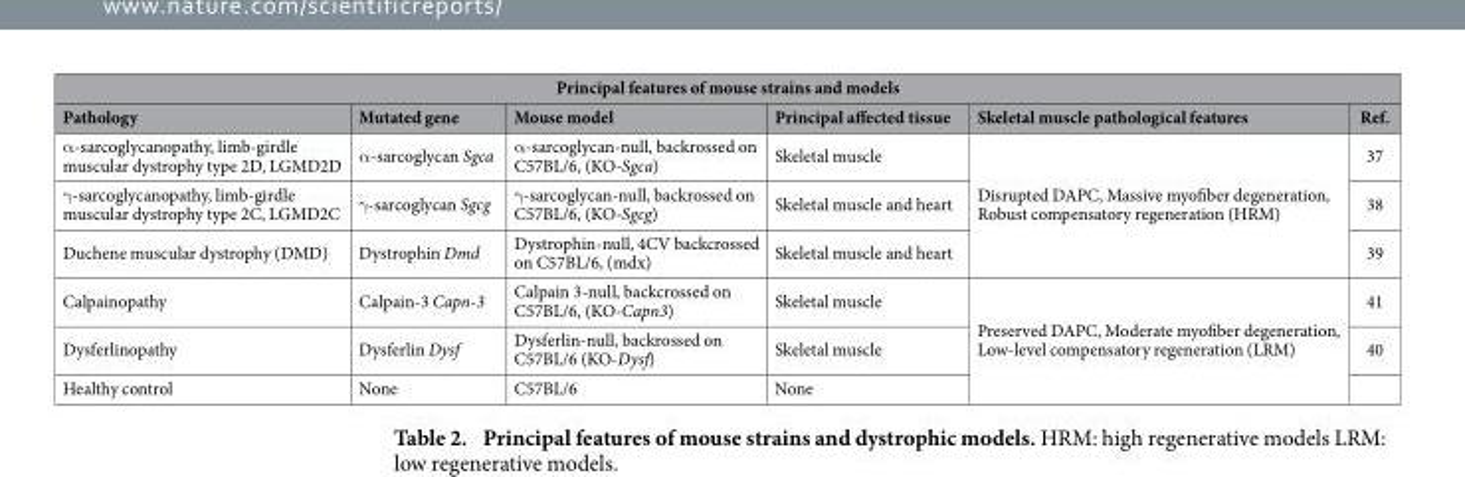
<table><thead><tr><td colspan="6">Principal features of mouse strains and models</td></tr><tr><td>Pathology</td><td>Mutated gene</td><td>Mouse model</td><td>Principal affected tissue</td><td>Skeletal muscle pathological features</td><td>Ref.</td></tr></thead><tbody><tr><td>α-sarcoglycanopathy, limb-girdle muscular dystrophy type 2D, LGMD2D</td><td>α-sarcoglycan Sgca</td><td>α-sarcoglycan-null, backrossed on C57BL/6, (KO-Sgca)</td><td>Skeletal muscle</td><td rowspan="3">Disrupted DAPC, Massive myofiber degeneration, Robust compensatory regeneration (HRM)</td><td>37</td></tr><tr><td>γ-sarcoglycanopathy, limb-girdle muscular dystrophy type 2C, LGMD2C</td><td>γ-sarcoglycan Sgcg</td><td>γ-sarcoglycan-null, backrossed on C57BL/6, (KO-Sgcg)</td><td>Skeletal muscle and heart</td><td>38</td></tr><tr><td>Duchene muscular dystrophy (DMD)</td><td>Dystrophin Dmd</td><td>Dystrophin-null, 4CV backcrossed on C57BL/6, (mdx)</td><td>Skeletal muscle and heart</td><td>39</td></tr><tr><td>Calpainopathy</td><td>Calpain-3 Capn-3</td><td>Calpain 3-null, backcrossed on C57BL/6, (KO-Capn3)</td><td>Skeletal muscle</td><td rowspan="3">Preserved DAPC, Moderate myofiber degeneration, Low-level compensatory regeneration (LRM)</td><td>41</td></tr><tr><td>Dysferlinopathy</td><td>Dysferlin Dysf</td><td>Dysferlin-null, backrossed on C57BL/6 (KO-Dysf)</td><td>Skeletal muscle</td><td>40</td></tr><tr><td>Healthy control</td><td>None</td><td>C57BL/6</td><td>None</td><td></td></tr></tbody></table>